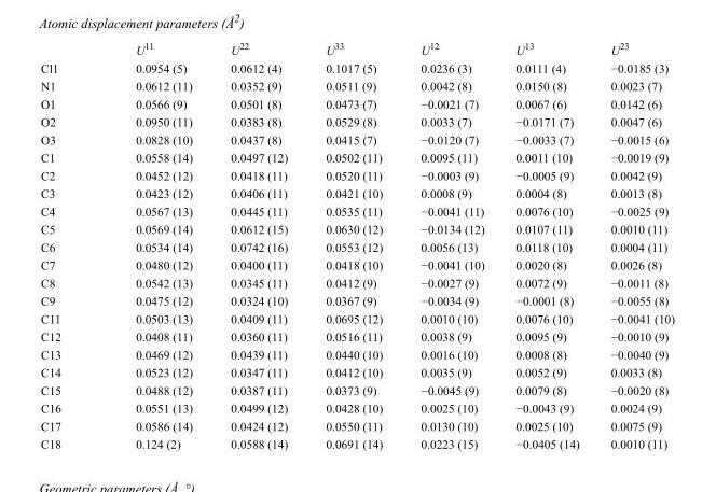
<table><thead><tr><td></td><td>U<sup>11</sup></td><td>U<sup>22</sup></td><td>U<sup>33</sup></td><td>U<sup>12</sup></td><td>U<sup>13</sup></td><td>U<sup>23</sup></td></tr></thead><tbody><tr><td>Cl1</td><td>0.0954 (5)</td><td>0.0612 (4)</td><td>0.1017 (5)</td><td>0.0236 (3)</td><td>0.0111 (4)</td><td>−0.0185 (3)</td></tr><tr><td>N1</td><td>0.0612 (11)</td><td>0.0352 (9)</td><td>0.0511 (9)</td><td>0.0042 (8)</td><td>0.0150 (8)</td><td>0.0023 (7)</td></tr><tr><td>O1</td><td>0.0566 (9)</td><td>0.0501 (8)</td><td>0.0473 (7)</td><td>−0.0021 (7)</td><td>0.0067 (6)</td><td>0.0142 (6)</td></tr><tr><td>O2</td><td>0.0950 (11)</td><td>0.0383 (8)</td><td>0.0529 (8)</td><td>0.0033 (7)</td><td>−0.0171 (7)</td><td>0.0047 (6)</td></tr><tr><td>O3</td><td>0.0828 (10)</td><td>0.0437 (8)</td><td>0.0415 (7)</td><td>−0.0120 (7)</td><td>−0.0033 (7)</td><td>−0.0015 (6)</td></tr><tr><td>C1</td><td>0.0558 (14)</td><td>0.0497 (12)</td><td>0.0502 (11)</td><td>0.0095 (11)</td><td>0.0011 (10)</td><td>−0.0019 (9)</td></tr><tr><td>C2</td><td>0.0452 (12)</td><td>0.0418 (11)</td><td>0.0520 (11)</td><td>−0.0003 (9)</td><td>−0.0005 (9)</td><td>0.0042 (9)</td></tr><tr><td>C3</td><td>0.0423 (12)</td><td>0.0406 (11)</td><td>0.0421 (10)</td><td>0.0008 (9)</td><td>0.0004 (8)</td><td>0.0013 (8)</td></tr><tr><td>C4</td><td>0.0567 (13)</td><td>0.0445 (11)</td><td>0.0535 (11)</td><td>−0.0041 (11)</td><td>0.0076 (10)</td><td>−0.0025 (9)</td></tr><tr><td>C5</td><td>0.0569 (14)</td><td>0.0612 (15)</td><td>0.0630 (12)</td><td>−0.0134 (12)</td><td>0.0107 (11)</td><td>0.0010 (11)</td></tr><tr><td>C6</td><td>0.0534 (14)</td><td>0.0742 (16)</td><td>0.0553 (12)</td><td>0.0056 (13)</td><td>0.0118 (10)</td><td>0.0004 (11)</td></tr><tr><td>C7</td><td>0.0480 (12)</td><td>0.0400 (11)</td><td>0.0418 (10)</td><td>−0.0041 (10)</td><td>0.0020 (8)</td><td>0.0026 (8)</td></tr><tr><td>C8</td><td>0.0542 (13)</td><td>0.0345 (11)</td><td>0.0412 (9)</td><td>−0.0027 (9)</td><td>0.0072 (9)</td><td>−0.0011 (8)</td></tr><tr><td>C9</td><td>0.0475 (12)</td><td>0.0324 (10)</td><td>0.0367 (9)</td><td>−0.0034 (9)</td><td>−0.0001 (8)</td><td>−0.0055 (8)</td></tr><tr><td>C11</td><td>0.0503 (13)</td><td>0.0409 (11)</td><td>0.0695 (12)</td><td>0.0010 (10)</td><td>0.0076 (10)</td><td>−0.0041 (10)</td></tr><tr><td>C12</td><td>0.0408 (11)</td><td>0.0360 (11)</td><td>0.0516 (11)</td><td>0.0038 (9)</td><td>0.0095 (9)</td><td>−0.0010 (9)</td></tr><tr><td>C13</td><td>0.0469 (12)</td><td>0.0439 (11)</td><td>0.0440 (10)</td><td>0.0016 (10)</td><td>0.0008 (8)</td><td>−0.0040 (9)</td></tr><tr><td>C14</td><td>0.0523 (12)</td><td>0.0347 (11)</td><td>0.0412 (10)</td><td>0.0035 (9)</td><td>0.0052 (9)</td><td>0.0033 (8)</td></tr><tr><td>C15</td><td>0.0488 (12)</td><td>0.0387 (11)</td><td>0.0373 (9)</td><td>−0.0045 (9)</td><td>0.0079 (8)</td><td>−0.0020 (8)</td></tr><tr><td>C16</td><td>0.0551 (13)</td><td>0.0499 (12)</td><td>0.0428 (10)</td><td>0.0025 (10)</td><td>−0.0043 (9)</td><td>0.0024 (9)</td></tr><tr><td>C17</td><td>0.0586 (14)</td><td>0.0424 (12)</td><td>0.0550 (11)</td><td>0.0130 (10)</td><td>0.0025 (10)</td><td>0.0075 (9)</td></tr><tr><td>C18</td><td>0.124 (2)</td><td>0.0588 (14)</td><td>0.0691 (14)</td><td>0.0223 (15)</td><td>−0.0405 (14)</td><td>0.0010 (11)</td></tr></tbody></table>